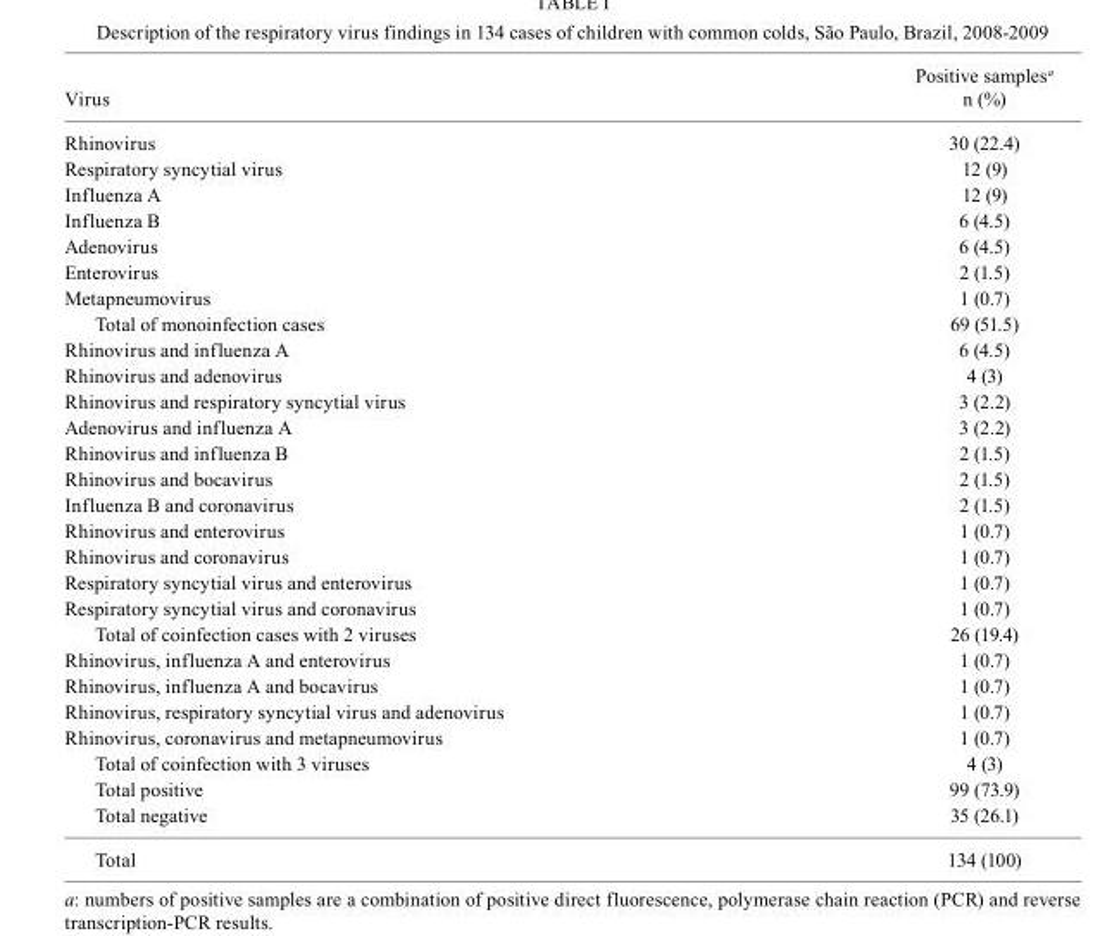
<table><thead><tr><td>Virus</td><td>Positive samples<sup>a</sup> n (%)</td></tr></thead><tbody><tr><td>Rhinovirus</td><td>30 (22.4)</td></tr><tr><td>Respiratory syncytial virus</td><td>12 (9)</td></tr><tr><td>Influenza A</td><td>12 (9)</td></tr><tr><td>Influenza B</td><td>6 (4.5)</td></tr><tr><td>Adenovirus</td><td>6 (4.5)</td></tr><tr><td>Enterovirus</td><td>2 (1.5)</td></tr><tr><td>Metapneumovirus</td><td>1 (0.7)</td></tr><tr><td>Total of monoinfection cases</td><td>69 (51.5)</td></tr><tr><td>Rhinovirus and influenza A</td><td>6 (4.5)</td></tr><tr><td>Rhinovirus and adenovirus</td><td>4 (3)</td></tr><tr><td>Rhinovirus and respiratory syncytial virus</td><td>3 (2.2)</td></tr><tr><td>Adenovirus and influenza A</td><td>3 (2.2)</td></tr><tr><td>Rhinovirus and influenza B</td><td>2 (1.5)</td></tr><tr><td>Rhinovirus and bocavirus</td><td>2 (1.5)</td></tr><tr><td>Influenza B and coronavirus</td><td>2 (1.5)</td></tr><tr><td>Rhinovirus and enterovirus</td><td>1 (0.7)</td></tr><tr><td>Rhinovirus and coronavirus</td><td>1 (0.7)</td></tr><tr><td>Respiratory syncytial virus and enterovirus</td><td>1 (0.7)</td></tr><tr><td>Respiratory syncytial virus and coronavirus</td><td>1 (0.7)</td></tr><tr><td>Total of coinfection cases with 2 viruses</td><td>26 (19.4)</td></tr><tr><td>Rhinovirus, influenza A and enterovirus</td><td>1 (0.7)</td></tr><tr><td>Rhinovirus, influenza A and bocavirus</td><td>1 (0.7)</td></tr><tr><td>Rhinovirus, respiratory syncytial virus and adenovirus</td><td>1 (0.7)</td></tr><tr><td>Rhinovirus, coronavirus and metapneumovirus</td><td>1 (0.7)</td></tr><tr><td>Total of coinfection with 3 viruses</td><td>4 (3)</td></tr><tr><td>Total positive</td><td>99 (73.9)</td></tr><tr><td>Total negative</td><td>35 (26.1)</td></tr><tr><td>Total</td><td>134 (100)</td></tr></tbody></table>